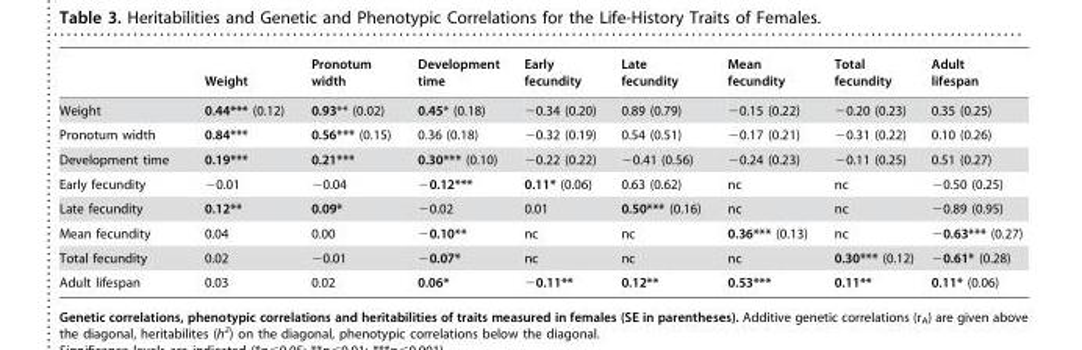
<table><thead><tr><td></td><td>Weight</td><td>Pronotum width</td><td>Development time</td><td>Early fecundity</td><td>Late fecundity</td><td>Mean fecundity</td><td>Total fecundity</td><td>Adult lifespan</td></tr></thead><tbody><tr><td>Weight</td><td>0.44*** (0.12)</td><td>0.93** (0.02)</td><td>0.45* (0.18)</td><td>−0.34 (0.20)</td><td>0.89 (0.79)</td><td>−0.15 (0.22)</td><td>−0.20 (0.23)</td><td>0.35 (0.25)</td></tr><tr><td>Pronotum width</td><td>0.84***</td><td>0.56*** (0.15)</td><td>0.36 (0.18)</td><td>−0.32 (0.19)</td><td>0.54 (0.51)</td><td>−0.17 (0.21)</td><td>−0.31 (0.22)</td><td>0.10 (0.26)</td></tr><tr><td>Development time</td><td>0.19***</td><td>0.21***</td><td>0.30*** (0.10)</td><td>−0.22 (0.22)</td><td>−0.41 (0.56)</td><td>−0.24 (0.23)</td><td>−0.11 (0.25)</td><td>0.51 (0.27)</td></tr><tr><td>Early fecundity</td><td>−0.01</td><td>−0.04</td><td>−0.12***</td><td>0.11* (0.06)</td><td>0.63 (0.62)</td><td>nc</td><td>nc</td><td>−0.50 (0.25)</td></tr><tr><td>Late fecundity</td><td>0.12**</td><td>0.09*</td><td>−0.02</td><td>0.01</td><td>0.50*** (0.16)</td><td>nc</td><td>nc</td><td>−0.89 (0.95)</td></tr><tr><td>Mean fecundity</td><td>0.04</td><td>0.00</td><td>−0.10**</td><td>nc</td><td>nc</td><td>0.36*** (0.13)</td><td>nc</td><td>−0.63*** (0.27)</td></tr><tr><td>Total fecundity</td><td>0.02</td><td>−0.01</td><td>−0.07*</td><td>nc</td><td>nc</td><td>nc</td><td>0.30*** (0.12)</td><td>−0.61* (0.28)</td></tr><tr><td>Adult lifespan</td><td>0.03</td><td>0.02</td><td>0.06*</td><td>−0.11**</td><td>0.12**</td><td>0.53***</td><td>0.11**</td><td>0.11* (0.06)</td></tr></tbody></table>